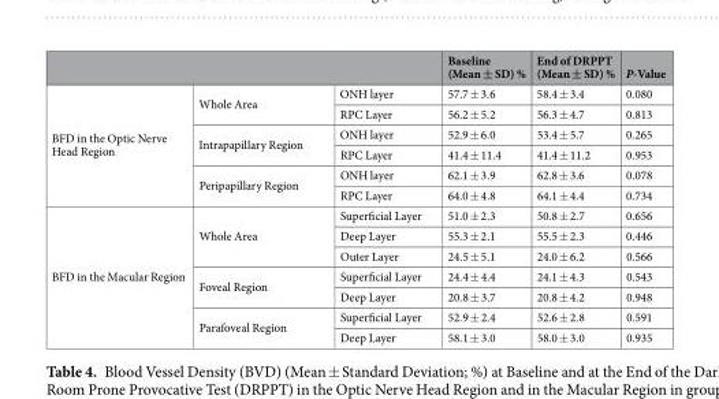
<table><thead><tr><td></td><td></td><td></td><td>Baseline (Mean ± SD) %</td><td>End of DRPPT (Mean ± SD) %</td><td>P-Value</td></tr></thead><tbody><tr><td rowspan="6">BFD in the Optic Nerve Head Region</td><td rowspan="2">Whole Area</td><td>ONH layer</td><td>57.7 ± 3.6</td><td>58.4 ± 3.4</td><td>0.080</td></tr><tr><td>RPC Layer</td><td>56.2 ± 5.2</td><td>56.3 ± 4.7</td><td>0.813</td></tr><tr><td rowspan="2">Intrapapillary Region</td><td>ONH layer</td><td>52.9 ± 6.0</td><td>53.4 ± 5.7</td><td>0.265</td></tr><tr><td>RPC Layer</td><td>41.4 ± 11.4</td><td>41.4 ± 11.2</td><td>0.953</td></tr><tr><td rowspan="2">Peripapillary Region</td><td>ONH layer</td><td>62.1 ± 3.9</td><td>62.8 ± 3.6</td><td>0.078</td></tr><tr><td>RPC Layer</td><td>64.0 ± 4.8</td><td>64.1 ± 4.4</td><td>0.734</td></tr><tr><td rowspan="7">BFD in the Macular Region</td><td rowspan="3">Whole Area</td><td>Superficial Layer</td><td>51.0 ± 2.3</td><td>50.8 ± 2.7</td><td>0.656</td></tr><tr><td>Deep Layer</td><td>55.3 ± 2.1</td><td>55.5 ± 2.3</td><td>0.446</td></tr><tr><td>Outer Layer</td><td>24.5 ± 5.1</td><td>24.0 ± 6.2</td><td>0.566</td></tr><tr><td rowspan="2">Foveal Region</td><td>Superficial Layer</td><td>24.4 ± 4.4</td><td>24.1 ± 4.3</td><td>0.543</td></tr><tr><td>Deep Layer</td><td>20.8 ± 3.7</td><td>20.8 ± 4.2</td><td>0.948</td></tr><tr><td rowspan="2">Parafoveal Region</td><td>Superficial Layer</td><td>52.9 ± 2.4</td><td>52.6 ± 2.8</td><td>0.591</td></tr><tr><td>Deep Layer</td><td>58.1 ± 3.0</td><td>58.0 ± 3.0</td><td>0.935</td></tr></tbody></table>